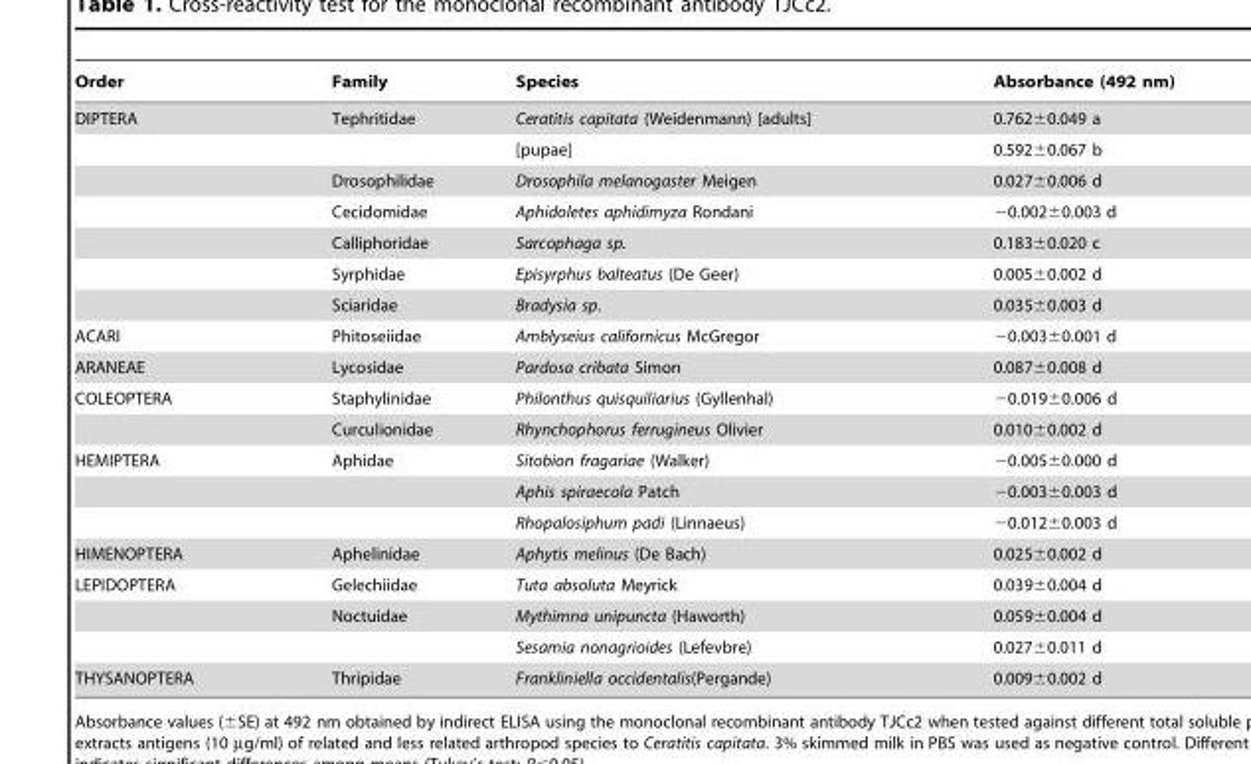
<table><thead><tr><td>Order</td><td>Family</td><td>Species</td><td>Absorbance (492 nm)</td></tr></thead><tbody><tr><td rowspan="7">DIPTERA</td><td>Tephritidae</td><td>Ceratitis capitata (Weidenmann) [adults]</td><td>0.762±0.049 a</td></tr><tr><td></td><td>[pupae]</td><td>0.592±0.067 b</td></tr><tr><td>Drosophilidae</td><td>Drosophila melanogaster Meigen</td><td>0.027±0.006 d</td></tr><tr><td>Cecidomidae</td><td>Aphidoletes aphidimyza Rondani</td><td>−0.002±0.003 d</td></tr><tr><td>Calliphoridae</td><td>Sarcophaga sp.</td><td>0.183±0.020 c</td></tr><tr><td>Syrphidae</td><td>Episyrphus balteatus (De Geer)</td><td>0.005±0.002 d</td></tr><tr><td>Sciaridae</td><td>Bradysia sp.</td><td>0.035±0.003 d</td></tr><tr><td>ACARI</td><td>Phitoseiidae</td><td>Amblyseius californicus McGregor</td><td>−0.003±0.001 d</td></tr><tr><td>ARANEAE</td><td>Lycosidae</td><td>Pardosa cribata Simon</td><td>0.087±0.008 d</td></tr><tr><td rowspan="2">COLEOPTERA</td><td>Staphylinidae</td><td>Philonthus quisquiliarius (Gyllenhal)</td><td>−0.019±0.006 d</td></tr><tr><td>Curculionidae</td><td>Rhynchophorus ferrugineus Olivier</td><td>0.010±0.002 d</td></tr><tr><td rowspan="3">HEMIPTERA</td><td>Aphidae</td><td>Sitobion fragariae (Walker)</td><td>−0.005±0.000 d</td></tr><tr><td></td><td>Aphis spiraecola Patch</td><td>−0.003±0.003 d</td></tr><tr><td></td><td>Rhopalosiphum padi (Linnaeus)</td><td>−0.012±0.003 d</td></tr><tr><td>HIMENOPTERA</td><td>Aphelinidae</td><td>Aphytis melinus (De Bach)</td><td>0.025±0.002 d</td></tr><tr><td rowspan="3">LEPIDOPTERA</td><td>Gelechiidae</td><td>Tuta absoluta Meyrick</td><td>0.039±0.004 d</td></tr><tr><td>Noctuidae</td><td>Mythimna unipuncta (Haworth)</td><td>0.059±0.004 d</td></tr><tr><td></td><td>Sesamia nonagrioides (Lefevbre)</td><td>0.027±0.011 d</td></tr><tr><td>THYSANOPTERA</td><td>Thripidae</td><td>Frankliniella occidentalis(Pergande)</td><td>0.009±0.002 d</td></tr></tbody></table>